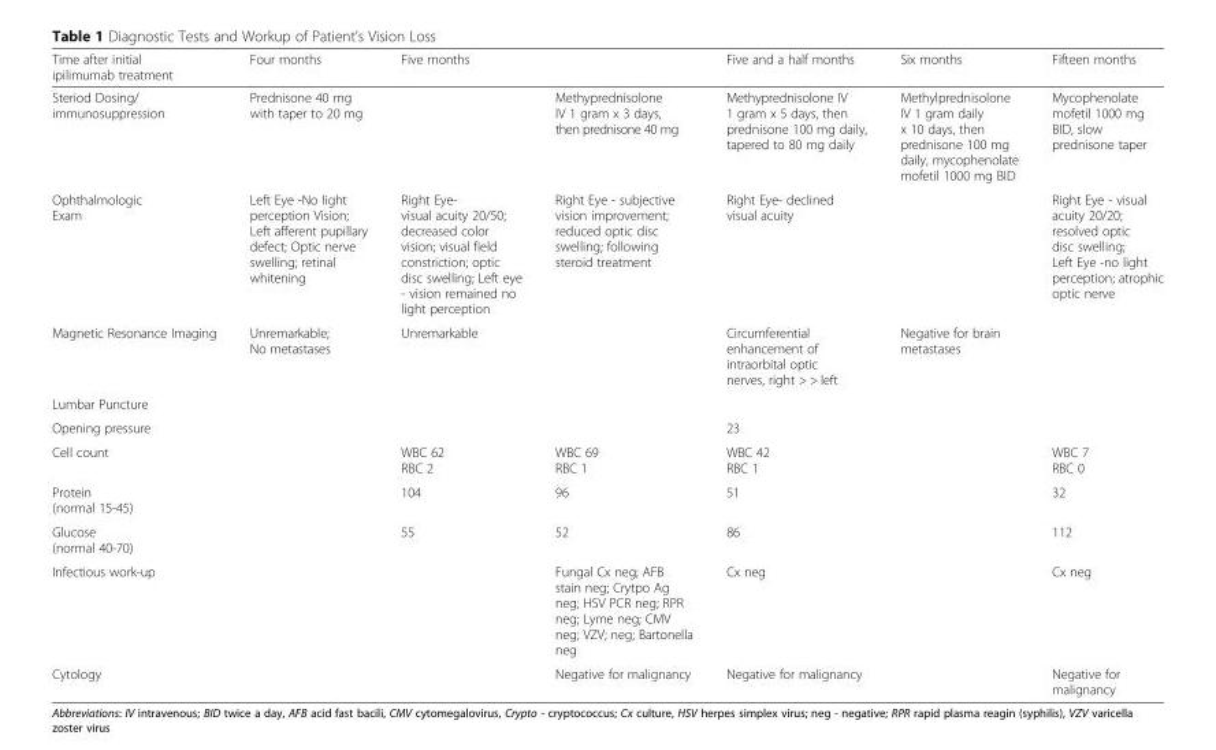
<table><thead><tr><td rowspan="2">Time after initial ipilimumab treatment Steriod Dosing/ immunosuppression</td><td rowspan="2">Four months Prednisone 40 mg with taper to 20 mg</td><td colspan="2">Five months</td><td rowspan="2">Five and a half months Methyprednisolone IV 1 gram x 5 days, then prednisone 100 mg daily, tapered to 80 mg daily</td><td rowspan="2">Six months Methylprednisolone IV 1 gram daily x 10 days, then prednisone 100 mg daily, mycophenolate mofetil 1000 mg BID</td><td rowspan="2">Fifteen months Mycophenolate mofetil 1000 mg BID, slow prednisone taper</td></tr><tr><td></td><td>Methyprednisolone IV 1 gram x 3 days, then prednisone 40 mg</td></tr></thead><tbody><tr><td>Ophthalmologic Exam</td><td>Left Eye -No light perception Vision; Left afferent pupillary defect; Optic nerve swelling; retinal whitening</td><td>Right Eye- visual acuity 20/50; decreased color vision; visual field constriction; optic disc swelling; Left eye - vision remained no light perception</td><td>Right Eye - subjective vision improvement; reduced optic disc swelling; following steroid treatment</td><td>Right Eye- declined visual acuity</td><td></td><td>Right Eye - visual acuity 20/20; resolved optic disc swelling; Left Eye -no light perception; atrophic optic nerve</td></tr><tr><td>Magnetic Resonance Imaging</td><td>Unremarkable; No metastases</td><td>Unremarkable</td><td></td><td>Circumferential enhancement of intraorbital optic nerves, right &gt; &gt; left</td><td>Negative for brain metastases</td><td></td></tr><tr><td colspan="7">Lumbar Puncture</td></tr><tr><td>Opening pressure</td><td></td><td></td><td></td><td>23</td><td></td><td></td></tr><tr><td>Cell count</td><td></td><td>WBC 62 RBC 2</td><td>WBC 69 RBC 1</td><td>WBC 42 RBC 1</td><td></td><td>WBC 7 RBC 0</td></tr><tr><td>Protein (normal 15-45)</td><td></td><td>104</td><td>96</td><td>51</td><td></td><td>32</td></tr><tr><td>Glucose (normal 40-70)</td><td></td><td>55</td><td>52</td><td>86</td><td></td><td>112</td></tr><tr><td>Infectious work-up</td><td></td><td></td><td>Fungal Cx neg; AFB stain neg; Crytpo Ag neg; HSV PCR neg; RPR neg; Lyme neg; CMV neg; VZV; neg; Bartonella neg</td><td>Cx neg</td><td></td><td>Cx neg</td></tr><tr><td>Cytology</td><td></td><td></td><td>Negative for malignancy</td><td>Negative for malignancy</td><td></td><td>Negative for malignancy</td></tr></tbody></table>